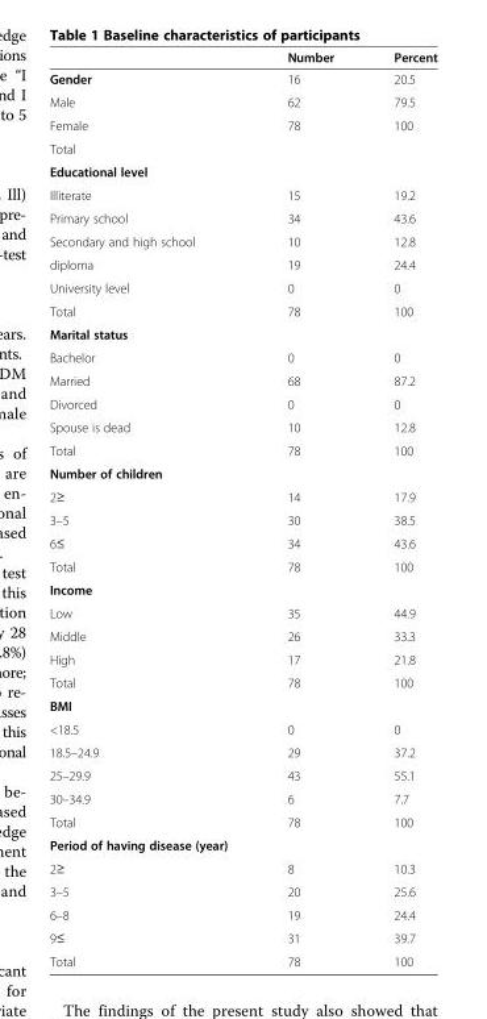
<table><thead><tr><td></td><td>Number</td><td>Percent</td></tr></thead><tbody><tr><td>Gender</td><td>16</td><td>20.5</td></tr><tr><td>Male</td><td>62</td><td>79.5</td></tr><tr><td>Female</td><td>78</td><td>100</td></tr><tr><td colspan="3">Total</td></tr><tr><td colspan="3">Educational level</td></tr><tr><td>Illiterate</td><td>15</td><td>19.2</td></tr><tr><td>Primary school</td><td>34</td><td>43.6</td></tr><tr><td>Secondary and high school</td><td>10</td><td>12.8</td></tr><tr><td>diploma</td><td>19</td><td>24.4</td></tr><tr><td>University level</td><td>0</td><td>0</td></tr><tr><td>Total</td><td>78</td><td>100</td></tr><tr><td colspan="3">Marital status</td></tr><tr><td>Bachelor</td><td>0</td><td>0</td></tr><tr><td>Married</td><td>68</td><td>87.2</td></tr><tr><td>Divorced</td><td>0</td><td>0</td></tr><tr><td>Spouse is dead</td><td>10</td><td>12.8</td></tr><tr><td>Total</td><td>78</td><td>100</td></tr><tr><td colspan="3">Number of children</td></tr><tr><td>2≥</td><td>14</td><td>17.9</td></tr><tr><td>3–5</td><td>30</td><td>38.5</td></tr><tr><td>6≤</td><td>34</td><td>43.6</td></tr><tr><td>Total</td><td>78</td><td>100</td></tr><tr><td colspan="3">Income</td></tr><tr><td>Low</td><td>35</td><td>44.9</td></tr><tr><td>Middle</td><td>26</td><td>33.3</td></tr><tr><td>High</td><td>17</td><td>21.8</td></tr><tr><td>Total</td><td>78</td><td>100</td></tr><tr><td colspan="3">BMI</td></tr><tr><td>&lt;18.5</td><td>0</td><td>0</td></tr><tr><td>18.5–24.9</td><td>29</td><td>37.2</td></tr><tr><td>25–29.9</td><td>43</td><td>55.1</td></tr><tr><td>30–34.9</td><td>6</td><td>7.7</td></tr><tr><td>Total</td><td>78</td><td>100</td></tr><tr><td colspan="3">Period of having disease (year)</td></tr><tr><td>2≥</td><td>8</td><td>10.3</td></tr><tr><td>3–5</td><td>20</td><td>25.6</td></tr><tr><td>6–8</td><td>19</td><td>24.4</td></tr><tr><td>9≤</td><td>31</td><td>39.7</td></tr><tr><td>Total</td><td>78</td><td>100</td></tr></tbody></table>